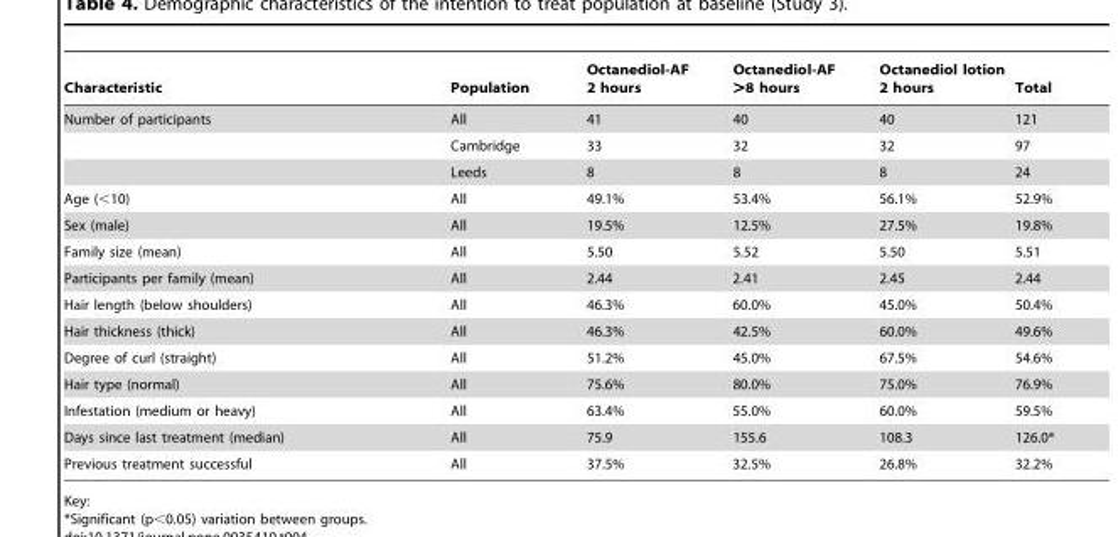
<table><thead><tr><td>Characteristic</td><td>Population</td><td>Octanediol-AF 2 hours</td><td>Octanediol-AF &gt;8 hours</td><td>Octanediol lotion 2 hours</td><td>Total</td></tr></thead><tbody><tr><td rowspan="3">Number of participants</td><td>All</td><td>41</td><td>40</td><td>40</td><td>121</td></tr><tr><td>Cambridge</td><td>33</td><td>32</td><td>32</td><td>97</td></tr><tr><td>Leeds</td><td>8</td><td>8</td><td>8</td><td>24</td></tr><tr><td>Age (&lt;10)</td><td>All</td><td>49.1%</td><td>53.4%</td><td>56.1%</td><td>52.9%</td></tr><tr><td>Sex (male)</td><td>All</td><td>19.5%</td><td>12.5%</td><td>27.5%</td><td>19.8%</td></tr><tr><td>Family size (mean)</td><td>All</td><td>5.50</td><td>5.52</td><td>5.50</td><td>5.51</td></tr><tr><td>Participants per family (mean)</td><td>All</td><td>2.44</td><td>2.41</td><td>2.45</td><td>2.44</td></tr><tr><td>Hair length (below shoulders)</td><td>All</td><td>46.3%</td><td>60.0%</td><td>45.0%</td><td>50.4%</td></tr><tr><td>Hair thickness (thick)</td><td>All</td><td>46.3%</td><td>42.5%</td><td>60.0%</td><td>49.6%</td></tr><tr><td>Degree of curl (straight)</td><td>All</td><td>51.2%</td><td>45.0%</td><td>67.5%</td><td>54.6%</td></tr><tr><td>Hair type (normal)</td><td>All</td><td>75.6%</td><td>80.0%</td><td>75.0%</td><td>76.9%</td></tr><tr><td>Infestation (medium or heavy)</td><td>All</td><td>63.4%</td><td>55.0%</td><td>60.0%</td><td>59.5%</td></tr><tr><td>Days since last treatment (median)</td><td>All</td><td>75.9</td><td>155.6</td><td>108.3</td><td>126.0*</td></tr><tr><td>Previous treatment successful</td><td>All</td><td>37.5%</td><td>32.5%</td><td>26.8%</td><td>32.2%</td></tr></tbody></table>